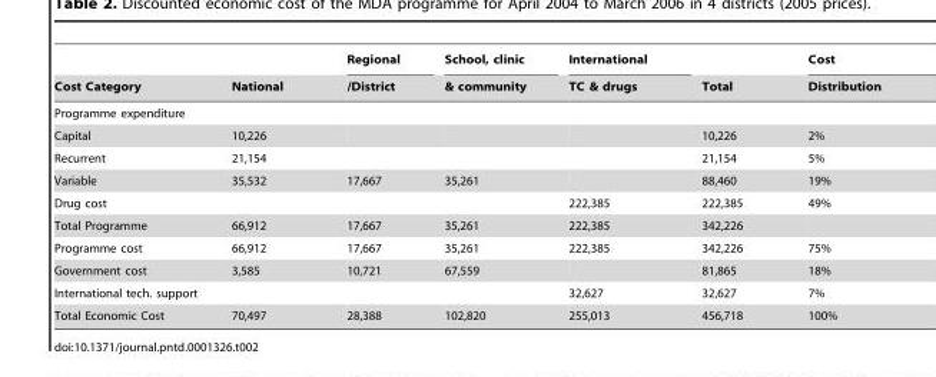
<table><thead><tr><td rowspan="2">Cost Category</td><td rowspan="2">National</td><td rowspan="2">Regional /District</td><td rowspan="2">School, clinic &amp; community</td><td rowspan="2">International TC &amp; drugs</td><td rowspan="2">Total</td><td rowspan="2">Cost Distribution</td></tr><tr></tr></thead><tbody><tr><td colspan="7">Programme expenditure</td></tr><tr><td>Capital</td><td>10,226</td><td></td><td></td><td></td><td>10,226</td><td>2%</td></tr><tr><td>Recurrent</td><td>21,154</td><td></td><td></td><td></td><td>21,154</td><td>5%</td></tr><tr><td>Variable</td><td>35,532</td><td>17,667</td><td>35,261</td><td></td><td>88,460</td><td>19%</td></tr><tr><td>Drug cost</td><td></td><td></td><td></td><td>222,385</td><td>222,385</td><td>49%</td></tr><tr><td>Total Programme</td><td>66,912</td><td>17,667</td><td>35,261</td><td>222,385</td><td>342,226</td><td></td></tr><tr><td>Programme cost</td><td>66,912</td><td>17,667</td><td>35,261</td><td>222,385</td><td>342,226</td><td>75%</td></tr><tr><td>Government cost</td><td>3,585</td><td>10,721</td><td>67,559</td><td></td><td>81,865</td><td>18%</td></tr><tr><td>International tech. support</td><td></td><td></td><td></td><td>32,627</td><td>32,627</td><td>7%</td></tr><tr><td>Total Economic Cost</td><td>70,497</td><td>28,388</td><td>102,820</td><td>255,013</td><td>456,718</td><td>100%</td></tr></tbody></table>